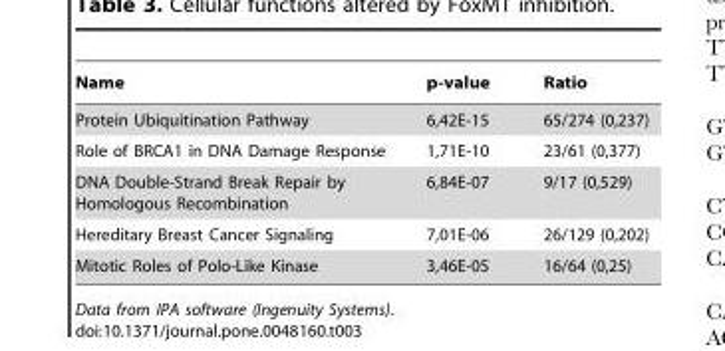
<table><thead><tr><td>Name</td><td>p-value</td><td>Ratio</td></tr></thead><tbody><tr><td>Protein Ubiquitination Pathway</td><td>6,42E-15</td><td>65/274 (0,237)</td></tr><tr><td>Role of BRCA1 in DNA Damage Response</td><td>1,71E-10</td><td>23/61 (0,377)</td></tr><tr><td>DNA Double-Strand Break Repair by Homologous Recombination</td><td>6,84E-07</td><td>9/17 (0,529)</td></tr><tr><td>Hereditary Breast Cancer Signaling</td><td>7,01E-06</td><td>26/129 (0,202)</td></tr><tr><td>Mitotic Roles of Polo-Like Kinase</td><td>3,46E-05</td><td>16/64 (0,25)</td></tr></tbody></table>